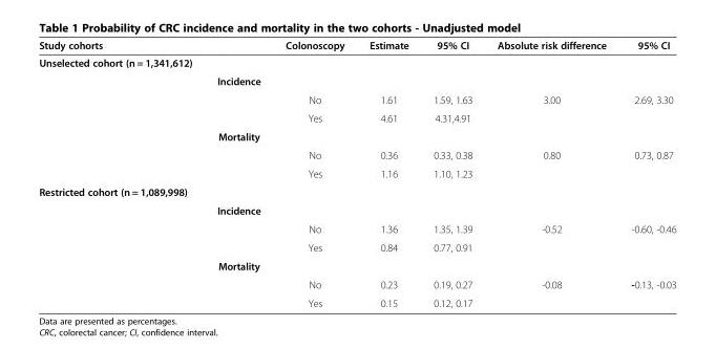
<table><thead><tr><td>Study cohorts</td><td></td><td>Colonoscopy</td><td>Estimate</td><td>95% CI</td><td>Absolute risk difference</td><td>95% CI</td></tr></thead><tbody><tr><td colspan="7">Unselected cohort (n = 1,341,612)</td></tr><tr><td></td><td>Incidence</td><td></td><td></td><td></td><td></td><td></td></tr><tr><td></td><td></td><td>No</td><td>1.61</td><td>1.59, 1.63</td><td>3.00</td><td>2.69, 3.30</td></tr><tr><td></td><td></td><td>Yes</td><td>4.61</td><td>4.31,4.91</td><td></td><td></td></tr><tr><td></td><td>Mortality</td><td></td><td></td><td></td><td></td><td></td></tr><tr><td></td><td></td><td>No</td><td>0.36</td><td>0.33, 0.38</td><td>0.80</td><td>0.73, 0.87</td></tr><tr><td></td><td></td><td>Yes</td><td>1.16</td><td>1.10, 1.23</td><td></td><td></td></tr><tr><td colspan="7">Restricted cohort (n = 1,089,998)</td></tr><tr><td></td><td>Incidence</td><td></td><td></td><td></td><td></td><td></td></tr><tr><td></td><td></td><td>No</td><td>1.36</td><td>1.35, 1.39</td><td>-0.52</td><td>-0.60, -0.46</td></tr><tr><td></td><td></td><td>Yes</td><td>0.84</td><td>0.77, 0.91</td><td></td><td></td></tr><tr><td></td><td>Mortality</td><td></td><td></td><td></td><td></td><td></td></tr><tr><td></td><td></td><td>No</td><td>0.23</td><td>0.19, 0.27</td><td>-0.08</td><td>-0.13, -0.03</td></tr><tr><td></td><td></td><td>Yes</td><td>0.15</td><td>0.12, 0.17</td><td></td><td></td></tr></tbody></table>